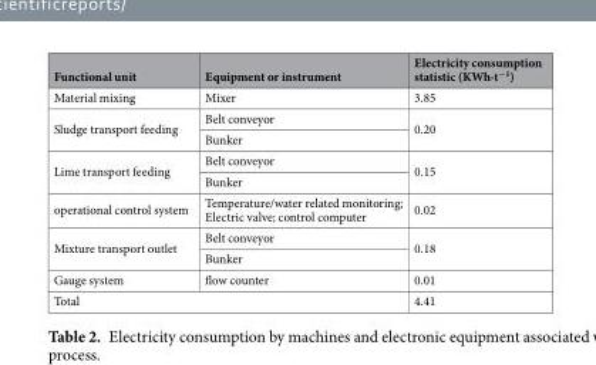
<table><thead><tr><td>Functional unit</td><td>Equipment or instrument</td><td>Electricity consumption statistic (KWh∙t<sup>−1</sup>)</td></tr></thead><tbody><tr><td>Material mixing</td><td>Mixer</td><td>3.85</td></tr><tr><td rowspan="2">Sludge transport feeding</td><td>Belt conveyor</td><td rowspan="2">0.20</td></tr><tr><td>Bunker</td></tr><tr><td rowspan="2">Lime transport feeding</td><td>Belt conveyor</td><td rowspan="2">0.15</td></tr><tr><td>Bunker</td></tr><tr><td>operational control system</td><td>Temperature/water related monitoring; Electric valve; control computer</td><td>0.02</td></tr><tr><td rowspan="2">Mixture transport outlet</td><td>Belt conveyor</td><td rowspan="2">0.18</td></tr><tr><td>Bunker</td></tr><tr><td>Gauge system</td><td>flow counter</td><td>0.01</td></tr><tr><td colspan="2">Total</td><td>4.41</td></tr></tbody></table>